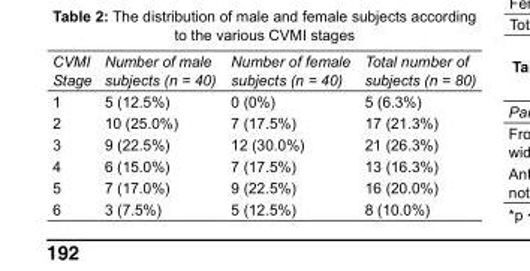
<table><tbody><tr><td>CVMI Stage</td><td>Number of male subjects (n = 40)</td><td>Number of female subjects (n = 40)</td><td>Total number of subjects (n = 80)</td></tr><tr><td>1</td><td>5 (12.5%)</td><td>0 (0%)</td><td>5 (6.3%)</td></tr><tr><td>2</td><td>10 (25.0%)</td><td>7 (17.5%)</td><td>17 (21.3%)</td></tr><tr><td>3</td><td>9 (22.5%)</td><td>12 (30.0%)</td><td>21 (26.3%)</td></tr><tr><td>4</td><td>6 (15.0%)</td><td>7 (17.5%)</td><td>13 (16.3%)</td></tr><tr><td>5</td><td>7 (17.0%)</td><td>9 (22.5%)</td><td>16 (20.0%)</td></tr><tr><td>6</td><td>3 (7.5%)</td><td>5 (12.5%)</td><td>8 (10.0%)</td></tr></tbody></table>